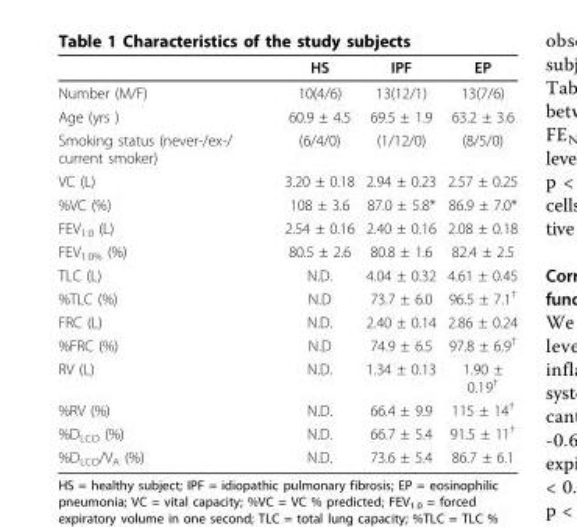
<table><thead><tr><td></td><td>HS</td><td>IPF</td><td>EP</td></tr></thead><tbody><tr><td>Number (M/F)</td><td>10(4/6)</td><td>13(12/1)</td><td>13(7/6)</td></tr><tr><td>Age (yrs )</td><td>60.9 ± 4.5</td><td>69.5 ± 1.9</td><td>63.2 ± 3.6</td></tr><tr><td>Smoking status (never-/ex-/ current smoker)</td><td>(6/4/0)</td><td>(1/12/0)</td><td>(8/5/0)</td></tr><tr><td>VC (L)</td><td>3.20 ± 0.18</td><td>2.94 ± 0.23</td><td>2.57 ± 0.25</td></tr><tr><td>%VC (%)</td><td>108 ± 3.6</td><td>87.0 ± 5.8*</td><td>86.9 ± 7.0*</td></tr><tr><td>FEV<sub>1.0</sub> (L)</td><td>2.54 ± 0.16</td><td>2.40 ± 0.16</td><td>2.08 ± 0.18</td></tr><tr><td>FEV<sub>1.0%</sub> (%)</td><td>80.5 ± 2.6</td><td>80.8 ± 1.6</td><td>82.4 ± 2.5</td></tr><tr><td>TLC (L)</td><td>N.D.</td><td>4.04 ± 0.32</td><td>4.61 ± 0.45</td></tr><tr><td>%TLC (%)</td><td>N.D</td><td>73.7 ± 6.0</td><td>96.5 ± 7.1<sup>†</sup></td></tr><tr><td>FRC (L)</td><td>N.D.</td><td>2.40 ± 0.14</td><td>2.86 ± 0.24</td></tr><tr><td>%FRC (%)</td><td>N.D</td><td>74.9 ± 6.5</td><td>97.8 ± 6.9<sup>†</sup></td></tr><tr><td>RV (L)</td><td>N.D.</td><td>1.34 ± 0.13</td><td>1.90 ± 0.19<sup>†</sup></td></tr><tr><td>%RV (%)</td><td>N.D.</td><td>66.4 ± 9.9</td><td>115 ± 14<sup>†</sup></td></tr><tr><td>%D<sub>LCO</sub> (%)</td><td>N.D.</td><td>66.7 ± 5.4</td><td>91.5 ± 11<sup>†</sup></td></tr><tr><td>%D<sub>LCO</sub>/V<sub>A</sub> (%)</td><td>N.D.</td><td>73.6 ± 5.4</td><td>86.7 ± 6.1</td></tr></tbody></table>